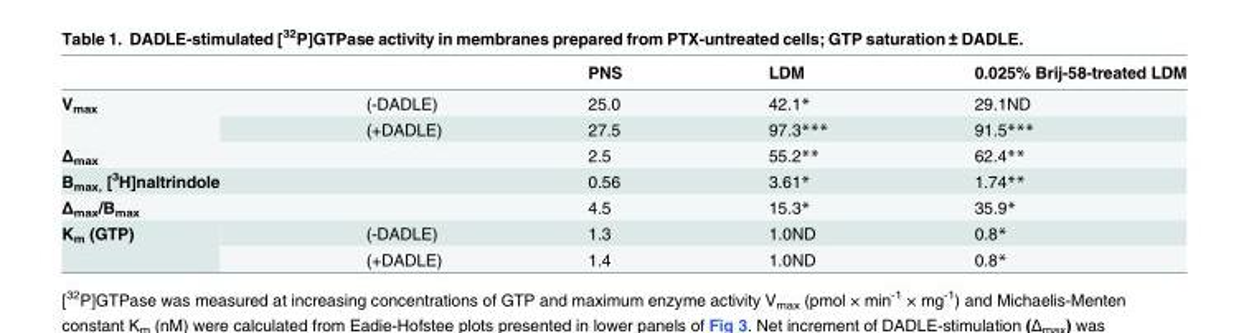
<table><thead><tr><td></td><td></td><td>PNS</td><td>LDM</td><td>0.025% Brij-58-treated LDM</td></tr></thead><tbody><tr><td rowspan="2">V<sub>max</sub></td><td>(-DADLE)</td><td>25.0</td><td>42.1*</td><td>29.1ND</td></tr><tr><td>(+DADLE)</td><td>27.5</td><td>97.3***</td><td>91.5***</td></tr><tr><td>Δ<sub>max</sub></td><td></td><td>2.5</td><td>55.2**</td><td>62.4**</td></tr><tr><td>B<sub>max,</sub> [<sup>3</sup>H]naltrindole</td><td></td><td>0.56</td><td>3.61*</td><td>1.74**</td></tr><tr><td>Δ<sub>max</sub>/B<sub>max</sub></td><td></td><td>4.5</td><td>15.3*</td><td>35.9*</td></tr><tr><td rowspan="2">K<sub>m</sub> (GTP)</td><td>(-DADLE)</td><td>1.3</td><td>1.0ND</td><td>0.8*</td></tr><tr><td>(+DADLE)</td><td>1.4</td><td>1.0ND</td><td>0.8*</td></tr></tbody></table>